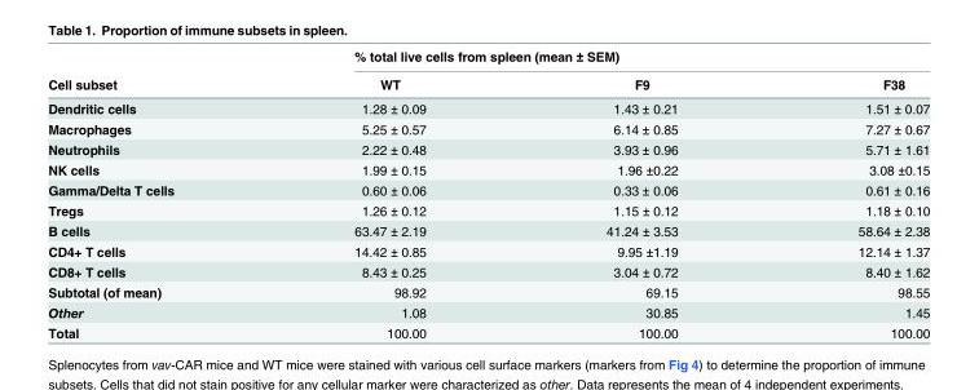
<table><thead><tr><td rowspan="2">Cell subset</td><td colspan="3">% total live cells from spleen (mean ± SEM)</td></tr><tr><td>WT</td><td>F9</td><td>F38</td></tr></thead><tbody><tr><td>Dendritic cells</td><td>1.28 ± 0.09</td><td>1.43 ± 0.21</td><td>1.51 ± 0.07</td></tr><tr><td>Macrophages</td><td>5.25 ± 0.57</td><td>6.14 ± 0.85</td><td>7.27 ± 0.67</td></tr><tr><td>Neutrophils</td><td>2.22 ± 0.48</td><td>3.93 ± 0.96</td><td>5.71 ± 1.61</td></tr><tr><td>NK cells</td><td>1.99 ± 0.15</td><td>1.96 ±0.22</td><td>3.08 ±0.15</td></tr><tr><td>Gamma/Delta T cells</td><td>0.60 ± 0.06</td><td>0.33 ± 0.06</td><td>0.61 ± 0.16</td></tr><tr><td>Tregs</td><td>1.26 ± 0.12</td><td>1.15 ± 0.12</td><td>1.18 ± 0.10</td></tr><tr><td>B cells</td><td>63.47 ± 2.19</td><td>41.24 ± 3.53</td><td>58.64 ± 2.38</td></tr><tr><td>CD4+ T cells</td><td>14.42 ± 0.85</td><td>9.95 ±1.19</td><td>12.14 ± 1.37</td></tr><tr><td>CD8+ T cells</td><td>8.43 ± 0.25</td><td>3.04 ± 0.72</td><td>8.40 ± 1.62</td></tr><tr><td>Subtotal (of mean)</td><td>98.92</td><td>69.15</td><td>98.55</td></tr><tr><td>Other</td><td>1.08</td><td>30.85</td><td>1.45</td></tr><tr><td>Total</td><td>100.00</td><td>100.00</td><td>100.00</td></tr></tbody></table>